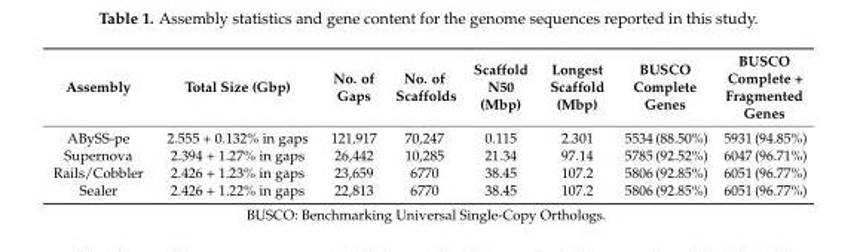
<table><thead><tr><td>Assembly</td><td>Total Size (Gbp)</td><td>No. of Gaps</td><td>No. of Scaffolds</td><td>Scaffold N50 (Mbp)</td><td>Longest Scaffold (Mbp)</td><td>BUSCO Complete Genes</td><td>BUSCO Complete + Fragmented Genes</td></tr></thead><tbody><tr><td>ABySS-pe</td><td>2.555 + 0.132% in gaps</td><td>121,917</td><td>70,247</td><td>0.115</td><td>2.301</td><td>5534 (88.50%)</td><td>5931 (94.85%)</td></tr><tr><td>Supernova</td><td>2.394 + 1.27% in gaps</td><td>26,442</td><td>10,285</td><td>21.34</td><td>97.14</td><td>5785 (92.52%)</td><td>6047 (96.71%)</td></tr><tr><td>Rails/Cobbler</td><td>2.426 + 1.23% in gaps</td><td>23,659</td><td>6770</td><td>38.45</td><td>107.2</td><td>5806 (92.85%)</td><td>6051 (96.77%)</td></tr><tr><td>Sealer</td><td>2.426 + 1.22% in gaps</td><td>22,813</td><td>6770</td><td>38.45</td><td>107.2</td><td>5806 (92.85%)</td><td>6051 (96.77%)</td></tr></tbody></table>